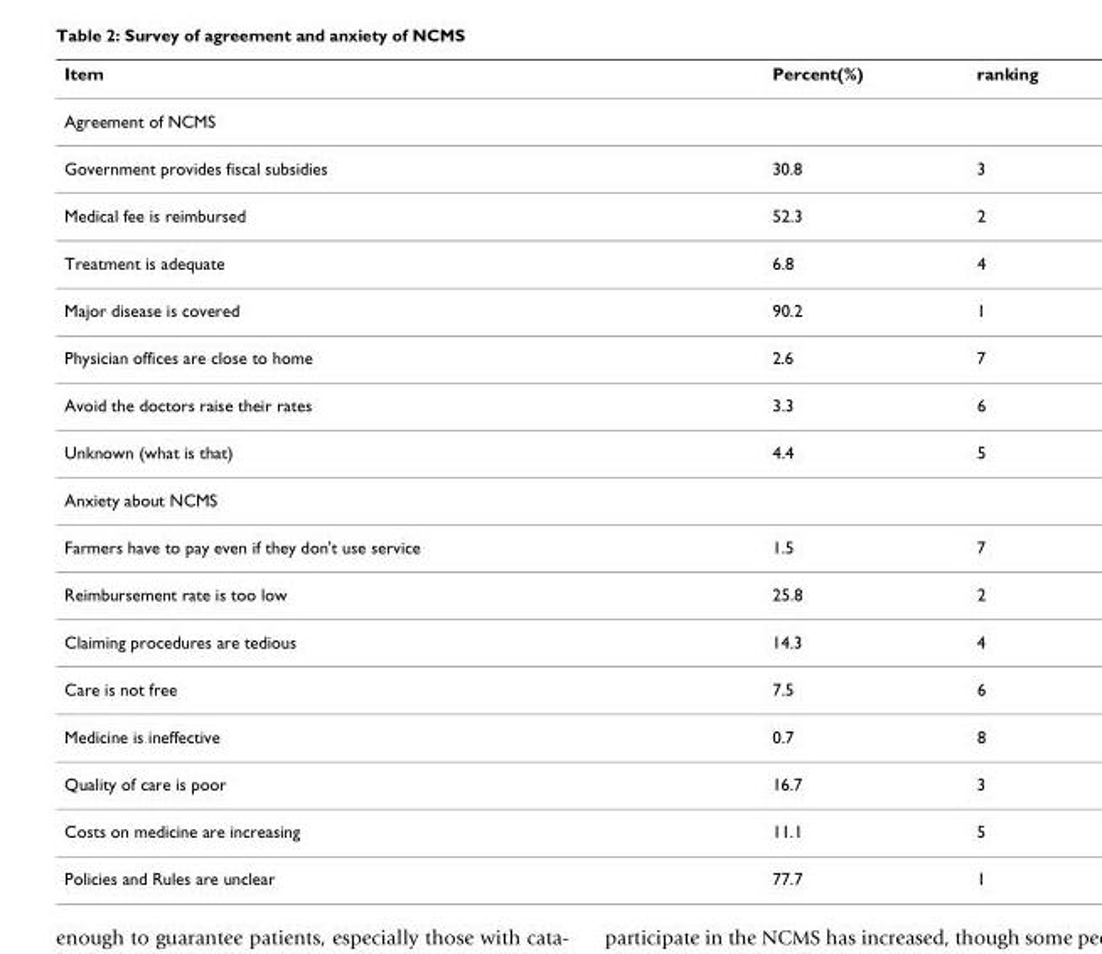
<table><thead><tr><td>Item</td><td>Percent(%)</td><td>ranking</td></tr></thead><tbody><tr><td colspan="3">Agreement of NCMS</td></tr><tr><td>Government provides fiscal subsidies</td><td>30.8</td><td>3</td></tr><tr><td>Medical fee is reimbursed</td><td>52.3</td><td>2</td></tr><tr><td>Treatment is adequate</td><td>6.8</td><td>4</td></tr><tr><td>Major disease is covered</td><td>90.2</td><td>1</td></tr><tr><td>Physician offices are close to home</td><td>2.6</td><td>7</td></tr><tr><td>Avoid the doctors raise their rates</td><td>3.3</td><td>6</td></tr><tr><td>Unknown (what is that)</td><td>4.4</td><td>5</td></tr><tr><td colspan="3">Anxiety about NCMS</td></tr><tr><td>Farmers have to pay even if they don&#x27;t use service</td><td>1.5</td><td>7</td></tr><tr><td>Reimbursement rate is too low</td><td>25.8</td><td>2</td></tr><tr><td>Claiming procedures are tedious</td><td>14.3</td><td>4</td></tr><tr><td>Care is not free</td><td>7.5</td><td>6</td></tr><tr><td>Medicine is ineffective</td><td>0.7</td><td>8</td></tr><tr><td>Quality of care is poor</td><td>16.7</td><td>3</td></tr><tr><td>Costs on medicine are increasing</td><td>11.1</td><td>5</td></tr><tr><td>Policies and Rules are unclear</td><td>77.7</td><td>1</td></tr></tbody></table>